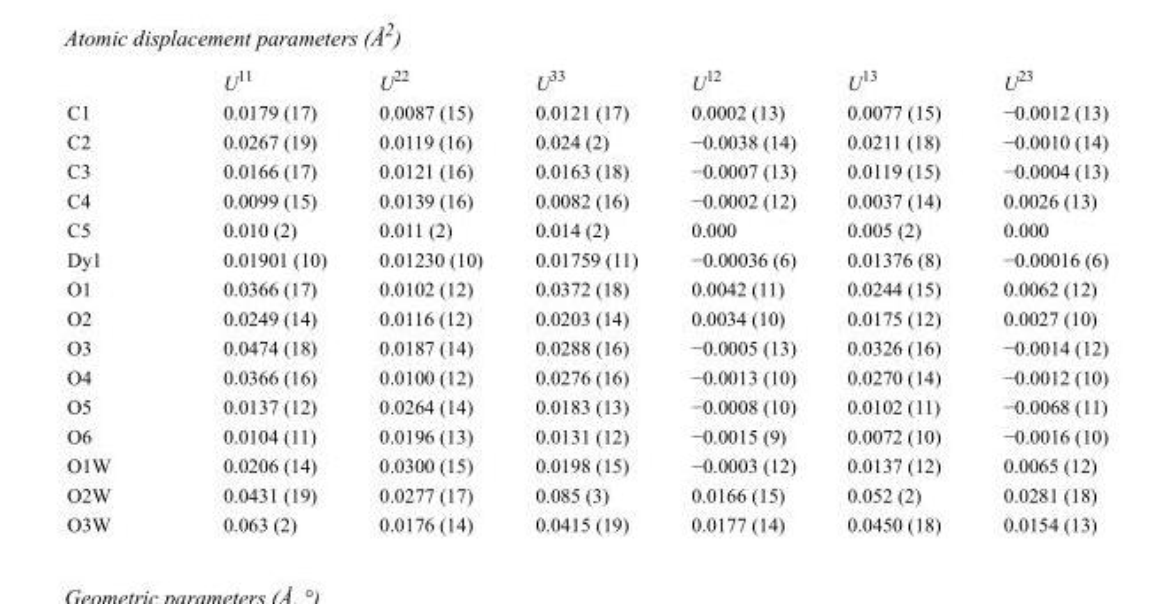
<table><thead><tr><td></td><td>U<sup>11</sup></td><td>U<sup>22</sup></td><td>U<sup>33</sup></td><td>U<sup>12</sup></td><td>U<sup>13</sup></td><td>U<sup>23</sup></td></tr></thead><tbody><tr><td>C1</td><td>0.0179 (17)</td><td>0.0087 (15)</td><td>0.0121 (17)</td><td>0.0002 (13)</td><td>0.0077 (15)</td><td>−0.0012 (13)</td></tr><tr><td>C2</td><td>0.0267 (19)</td><td>0.0119 (16)</td><td>0.024 (2)</td><td>−0.0038 (14)</td><td>0.0211 (18)</td><td>−0.0010 (14)</td></tr><tr><td>C3</td><td>0.0166 (17)</td><td>0.0121 (16)</td><td>0.0163 (18)</td><td>−0.0007 (13)</td><td>0.0119 (15)</td><td>−0.0004 (13)</td></tr><tr><td>C4</td><td>0.0099 (15)</td><td>0.0139 (16)</td><td>0.0082 (16)</td><td>−0.0002 (12)</td><td>0.0037 (14)</td><td>0.0026 (13)</td></tr><tr><td>C5</td><td>0.010 (2)</td><td>0.011 (2)</td><td>0.014 (2)</td><td>0.000</td><td>0.005 (2)</td><td>0.000</td></tr><tr><td>Dy1</td><td>0.01901 (10)</td><td>0.01230 (10)</td><td>0.01759 (11)</td><td>−0.00036 (6)</td><td>0.01376 (8)</td><td>−0.00016 (6)</td></tr><tr><td>O1</td><td>0.0366 (17)</td><td>0.0102 (12)</td><td>0.0372 (18)</td><td>0.0042 (11)</td><td>0.0244 (15)</td><td>0.0062 (12)</td></tr><tr><td>O2</td><td>0.0249 (14)</td><td>0.0116 (12)</td><td>0.0203 (14)</td><td>0.0034 (10)</td><td>0.0175 (12)</td><td>0.0027 (10)</td></tr><tr><td>O3</td><td>0.0474 (18)</td><td>0.0187 (14)</td><td>0.0288 (16)</td><td>−0.0005 (13)</td><td>0.0326 (16)</td><td>−0.0014 (12)</td></tr><tr><td>O4</td><td>0.0366 (16)</td><td>0.0100 (12)</td><td>0.0276 (16)</td><td>−0.0013 (10)</td><td>0.0270 (14)</td><td>−0.0012 (10)</td></tr><tr><td>O5</td><td>0.0137 (12)</td><td>0.0264 (14)</td><td>0.0183 (13)</td><td>−0.0008 (10)</td><td>0.0102 (11)</td><td>−0.0068 (11)</td></tr><tr><td>O6</td><td>0.0104 (11)</td><td>0.0196 (13)</td><td>0.0131 (12)</td><td>−0.0015 (9)</td><td>0.0072 (10)</td><td>−0.0016 (10)</td></tr><tr><td>O1W</td><td>0.0206 (14)</td><td>0.0300 (15)</td><td>0.0198 (15)</td><td>−0.0003 (12)</td><td>0.0137 (12)</td><td>0.0065 (12)</td></tr><tr><td>O2W</td><td>0.0431 (19)</td><td>0.0277 (17)</td><td>0.085 (3)</td><td>0.0166 (15)</td><td>0.052 (2)</td><td>0.0281 (18)</td></tr><tr><td>O3W</td><td>0.063 (2)</td><td>0.0176 (14)</td><td>0.0415 (19)</td><td>0.0177 (14)</td><td>0.0450 (18)</td><td>0.0154 (13)</td></tr></tbody></table>